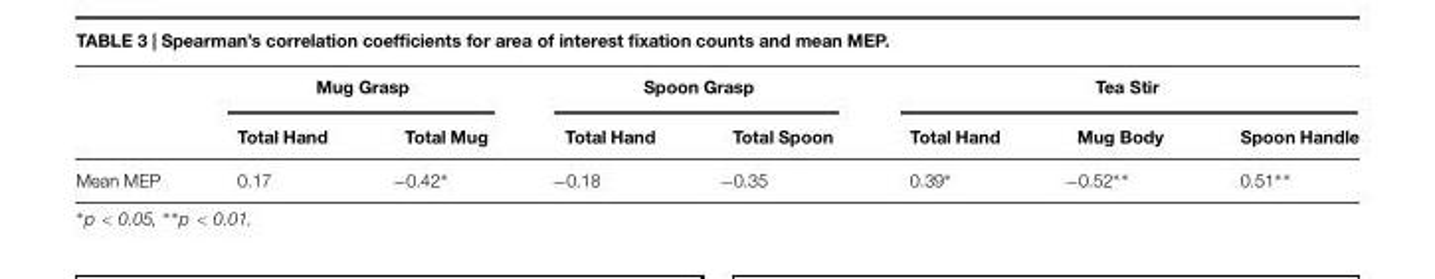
<table><thead><tr><td rowspan="2"></td><td colspan="2">Mug Grasp</td><td colspan="2">Spoon Grasp</td><td colspan="3">Tea Stir</td></tr><tr><td>Total Hand</td><td>Total Mug</td><td>Total Hand</td><td>Total Spoon</td><td>Total Hand</td><td>Mug Body</td><td>Spoon Handle</td></tr></thead><tbody><tr><td>Mean MEP</td><td>0.17</td><td>−0.42∗</td><td>−0.18</td><td>−0.35</td><td>0.39∗</td><td>−0.52∗∗</td><td>0.51∗∗</td></tr></tbody></table>